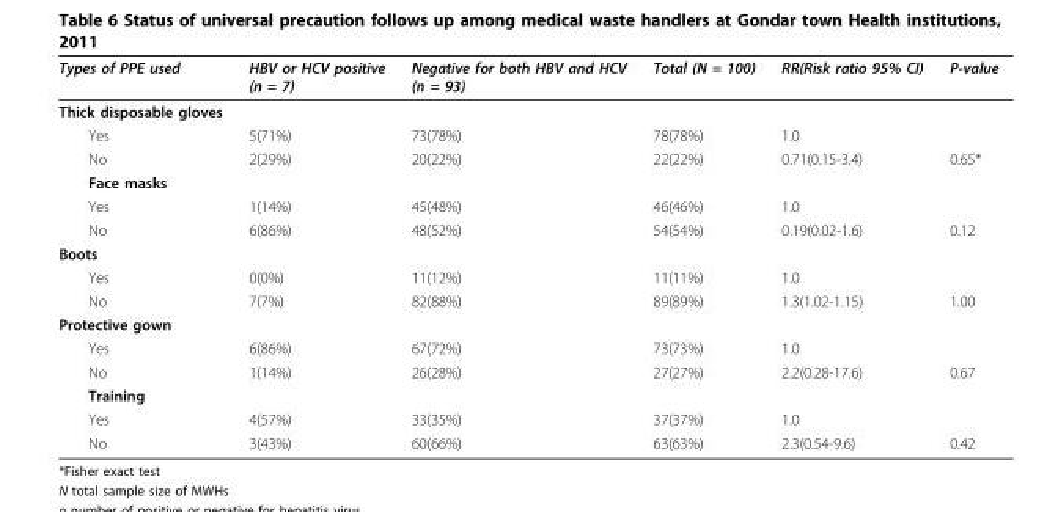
<table><thead><tr><td>Types of PPE used</td><td>HBV or HCV positive (n = 7)</td><td>Negative for both HBV and HCV (n = 93)</td><td>Total (N = 100)</td><td>RR(Risk ratio 95% CI)</td><td>P-value</td></tr></thead><tbody><tr><td colspan="6">Thick disposable gloves</td></tr><tr><td>Yes</td><td>5(71%)</td><td>73(78%)</td><td>78(78%)</td><td>1.0</td><td></td></tr><tr><td>No</td><td>2(29%)</td><td>20(22%)</td><td>22(22%)</td><td>0.71(0.15-3.4)</td><td>0.65*</td></tr><tr><td colspan="6">Face masks</td></tr><tr><td>Yes</td><td>1(14%)</td><td>45(48%)</td><td>46(46%)</td><td>1.0</td><td></td></tr><tr><td>No</td><td>6(86%)</td><td>48(52%)</td><td>54(54%)</td><td>0.19(0.02-1.6)</td><td>0.12</td></tr><tr><td colspan="6">Boots</td></tr><tr><td>Yes</td><td>0(0%)</td><td>11(12%)</td><td>11(11%)</td><td>1.0</td><td></td></tr><tr><td>No</td><td>7(7%)</td><td>82(88%)</td><td>89(89%)</td><td>1.3(1.02-1.15)</td><td>1.00</td></tr><tr><td colspan="6">Protective gown</td></tr><tr><td>Yes</td><td>6(86%)</td><td>67(72%)</td><td>73(73%)</td><td>1.0</td><td></td></tr><tr><td>No</td><td>1(14%)</td><td>26(28%)</td><td>27(27%)</td><td>2.2(0.28-17.6)</td><td>0.67</td></tr><tr><td colspan="6">Training</td></tr><tr><td>Yes</td><td>4(57%)</td><td>33(35%)</td><td>37(37%)</td><td>1.0</td><td></td></tr><tr><td>No</td><td>3(43%)</td><td>60(66%)</td><td>63(63%)</td><td>2.3(0.54-9.6)</td><td>0.42</td></tr></tbody></table>